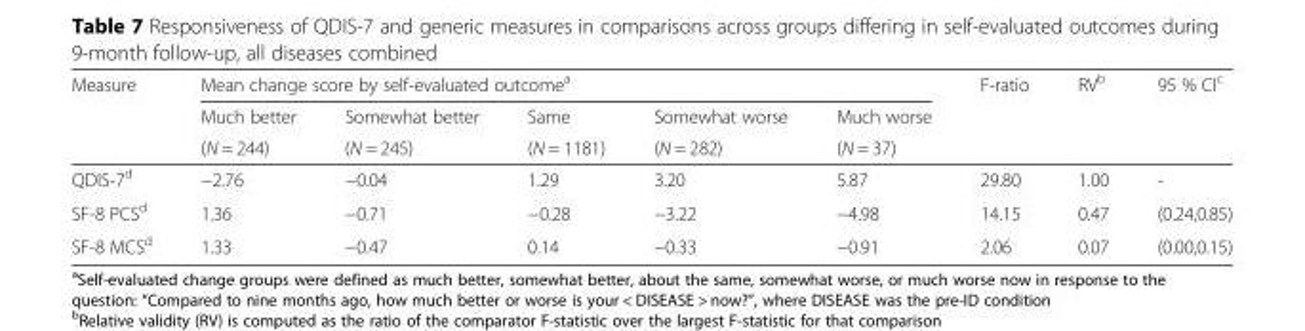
<table><thead><tr><td rowspan="3">Measure</td><td colspan="5">Mean change score by self-evaluated outcome<sup>a</sup></td><td rowspan="3">F-ratio</td><td rowspan="3">RV<sup>b</sup></td><td rowspan="3">95 % CI<sup>c</sup></td></tr><tr><td rowspan="2">Much better (N = 244)</td><td rowspan="2">Somewhat better (N = 245)</td><td rowspan="2">Same (N = 1181)</td><td rowspan="2">Somewhat worse (N = 282)</td><td rowspan="2">Much worse (N = 37)</td></tr><tr></tr></thead><tbody><tr><td>QDIS-7<sup>d</sup></td><td>−2.76</td><td>−0.04</td><td>1.29</td><td>3.20</td><td>5.87</td><td>29.80</td><td>1.00</td><td>-</td></tr><tr><td>SF-8 PCS<sup>d</sup></td><td>1.36</td><td>−0.71</td><td>−0.28</td><td>−3.22</td><td>−4.98</td><td>14.15</td><td>0.47</td><td>(0.24,0.85)</td></tr><tr><td>SF-8 MCS<sup>d</sup></td><td>1.33</td><td>−0.47</td><td>0.14</td><td>−0.33</td><td>−0.91</td><td>2.06</td><td>0.07</td><td>(0.00,0.15)</td></tr></tbody></table>